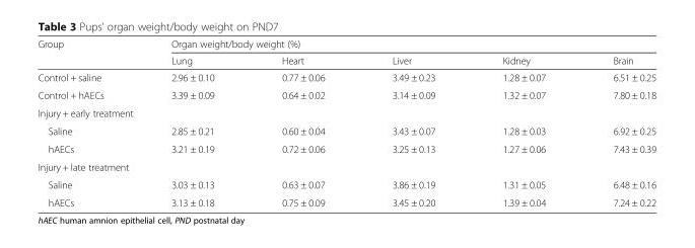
<table><thead><tr><td rowspan="2">Group</td><td colspan="5">Organ weight/body weight (%)</td></tr><tr><td>Lung</td><td>Heart</td><td>Liver</td><td>Kidney</td><td>Brain</td></tr></thead><tbody><tr><td>Control + saline</td><td>2.96 ± 0.10</td><td>0.77 ± 0.06</td><td>3.49 ± 0.23</td><td>1.28 ± 0.07</td><td>6.51 ± 0.25</td></tr><tr><td>Control + hAECs</td><td>3.39 ± 0.09</td><td>0.64 ± 0.02</td><td>3.14 ± 0.09</td><td>1.32 ± 0.07</td><td>7.80 ± 0.18</td></tr><tr><td colspan="6">Injury + early treatment</td></tr><tr><td>Saline</td><td>2.85 ± 0.21</td><td>0.60 ± 0.04</td><td>3.43 ± 0.07</td><td>1.28 ± 0.03</td><td>6.92 ± 0.25</td></tr><tr><td>hAECs</td><td>3.21 ± 0.19</td><td>0.72 ± 0.06</td><td>3.25 ± 0.13</td><td>1.27 ± 0.06</td><td>7.43 ± 0.39</td></tr><tr><td colspan="6">Injury + late treatment</td></tr><tr><td>Saline</td><td>3.03 ± 0.13</td><td>0.63 ± 0.07</td><td>3.86 ± 0.19</td><td>1.31 ± 0.05</td><td>6.48 ± 0.16</td></tr><tr><td>hAECs</td><td>3.13 ± 0.18</td><td>0.75 ± 0.09</td><td>3.45 ± 0.20</td><td>1.39 ± 0.04</td><td>7.24 ± 0.22</td></tr></tbody></table>